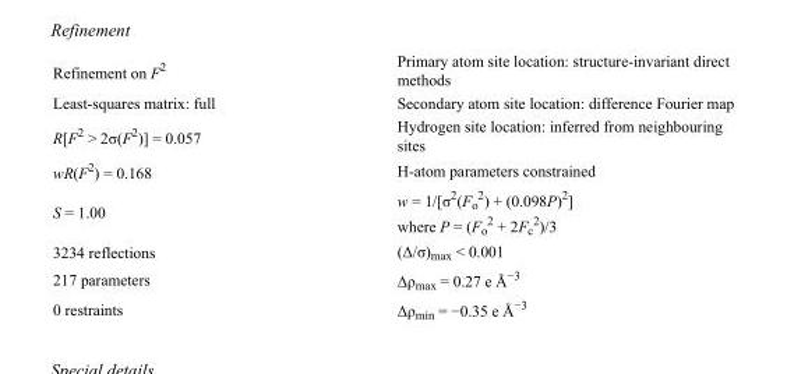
<table><tbody><tr><td>Refinement on F<sup>2</sup></td><td>Primary atom site location: structure-invariant direct methods</td></tr><tr><td>Least-squares matrix: full</td><td>Secondary atom site location: difference Fourier map</td></tr><tr><td>R[F<sup>2</sup> &gt; 2σ(F<sup>2</sup>)] = 0.057</td><td>Hydrogen site location: inferred from neighbouring sites</td></tr><tr><td>wR(F<sup>2</sup>) = 0.168</td><td>H-atom parameters constrained</td></tr><tr><td>S = 1.00</td><td>w = 1/[σ<sup>2</sup>(F<sub>o</sub> <sup>2</sup>) + (0.098P)<sup>2</sup>] where P = (F<sub>o</sub> <sup>2</sup> + 2F<sub>c</sub> <sup>2</sup>)/3</td></tr><tr><td>3234 reflections</td><td>(Δ/σ)<sub>max</sub> &lt; 0.001</td></tr><tr><td>217 parameters</td><td>Δρ<sub>max</sub> = 0.27 e Å<sup>−3</sup></td></tr><tr><td>0 restraints</td><td>Δρ<sub>min</sub> = −0.35 e Å<sup>−3</sup></td></tr></tbody></table>